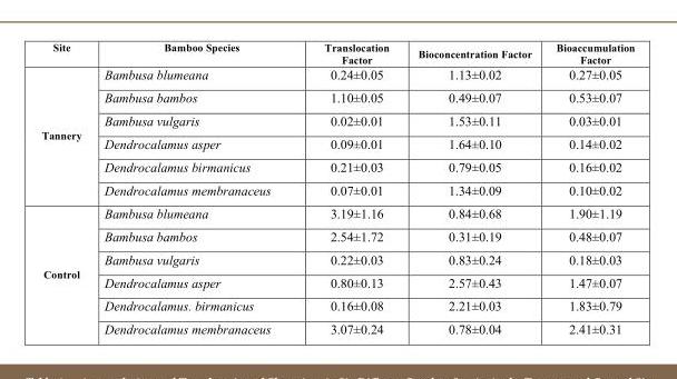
<table><thead><tr><td>Site</td><td>Bamboo Species</td><td>Translocation Factor</td><td>Bioconcentration Factor</td><td>Bioaccumulation Factor</td></tr></thead><tbody><tr><td rowspan="6">Tannery</td><td>Bambusa blumeana</td><td>0.24±0.05</td><td>1.13±0.02</td><td>0.27±0.05</td></tr><tr><td>Bambusa bambos</td><td>1.10±0.05</td><td>0.49±0.07</td><td>0.53±0.07</td></tr><tr><td>Bambusa vulgaris</td><td>0.02±0.01</td><td>1.53±0.11</td><td>0.03±0.01</td></tr><tr><td>Dendrocalamus asper</td><td>0.09±0.01</td><td>1.64±0.10</td><td>0.14±0.02</td></tr><tr><td>Dendrocalamus birmanicus</td><td>0.21±0.03</td><td>0.79±0.05</td><td>0.16±0.02</td></tr><tr><td>Dendrocalamus membranaceus</td><td>0.07±0.01</td><td>1.34±0.09</td><td>0.10±0.02</td></tr><tr><td rowspan="6">Control</td><td>Bambusa blumeana</td><td>3.19±1.16</td><td>0.84±0.68</td><td>1.90±1.19</td></tr><tr><td>Bambusa bambos</td><td>2.54±1.72</td><td>0.31±0.19</td><td>0.48±0.07</td></tr><tr><td>Bambusa vulgaris</td><td>0.22±0.03</td><td>0.83±0.24</td><td>0.18±0.03</td></tr><tr><td>Dendrocalamus asper</td><td>0.80±0.13</td><td>2.57±0.43</td><td>1.47±0.07</td></tr><tr><td>Dendrocalamus. birmanicus</td><td>0.16±0.08</td><td>2.21±0.03</td><td>1.83±0.79</td></tr><tr><td>Dendrocalamus membranaceus</td><td>3.07±0.24</td><td>0.78±0.04</td><td>2.41±0.31</td></tr></tbody></table>